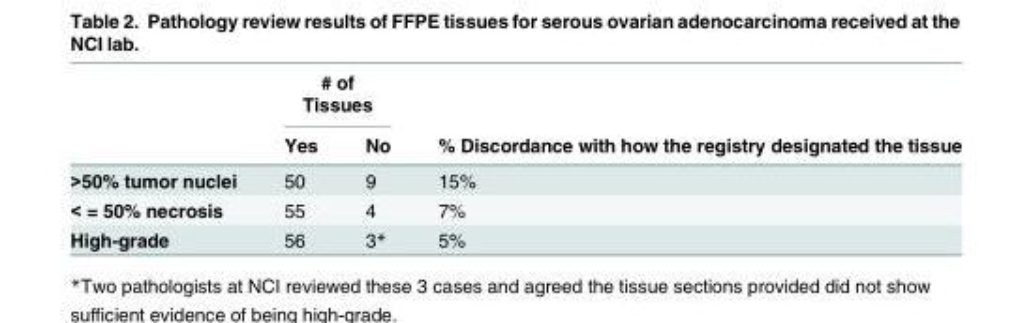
<table><thead><tr><td rowspan="2"></td><td colspan="2"># of Tissues</td><td rowspan="2">% Discordance with how the registry designated the tissue</td></tr><tr><td>Yes</td><td>No</td></tr></thead><tbody><tr><td>&gt;50% tumor nuclei</td><td>50</td><td>9</td><td>15%</td></tr><tr><td>&lt; = 50% necrosis</td><td>55</td><td>4</td><td>7%</td></tr><tr><td>High-grade</td><td>56</td><td>3*</td><td>5%</td></tr></tbody></table>